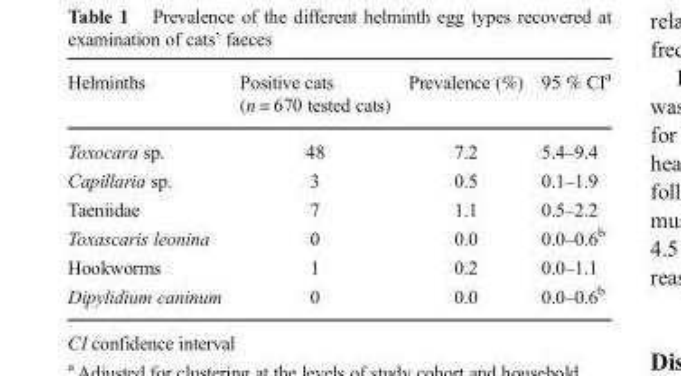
<table><thead><tr><td>Helminths</td><td>Positive cats (n = 670 tested cats)</td><td>Prevalence (%)</td><td>95 % CI<sup>a</sup></td></tr></thead><tbody><tr><td>Toxocara sp.</td><td>48</td><td>7.2</td><td>5.4–9.4</td></tr><tr><td>Capillaria sp.</td><td>3</td><td>0.5</td><td>0.1–1.9</td></tr><tr><td>Taeniidae</td><td>7</td><td>1.1</td><td>0.5–2.2</td></tr><tr><td>Toxascaris leonina</td><td>0</td><td>0.0</td><td>0.0–0.6<sup>b</sup></td></tr><tr><td>Hookworms</td><td>1</td><td>0.2</td><td>0.0–1.1</td></tr><tr><td>Dipylidium caninum</td><td>0</td><td>0.0</td><td>0.0–0.6<sup>b</sup></td></tr></tbody></table>